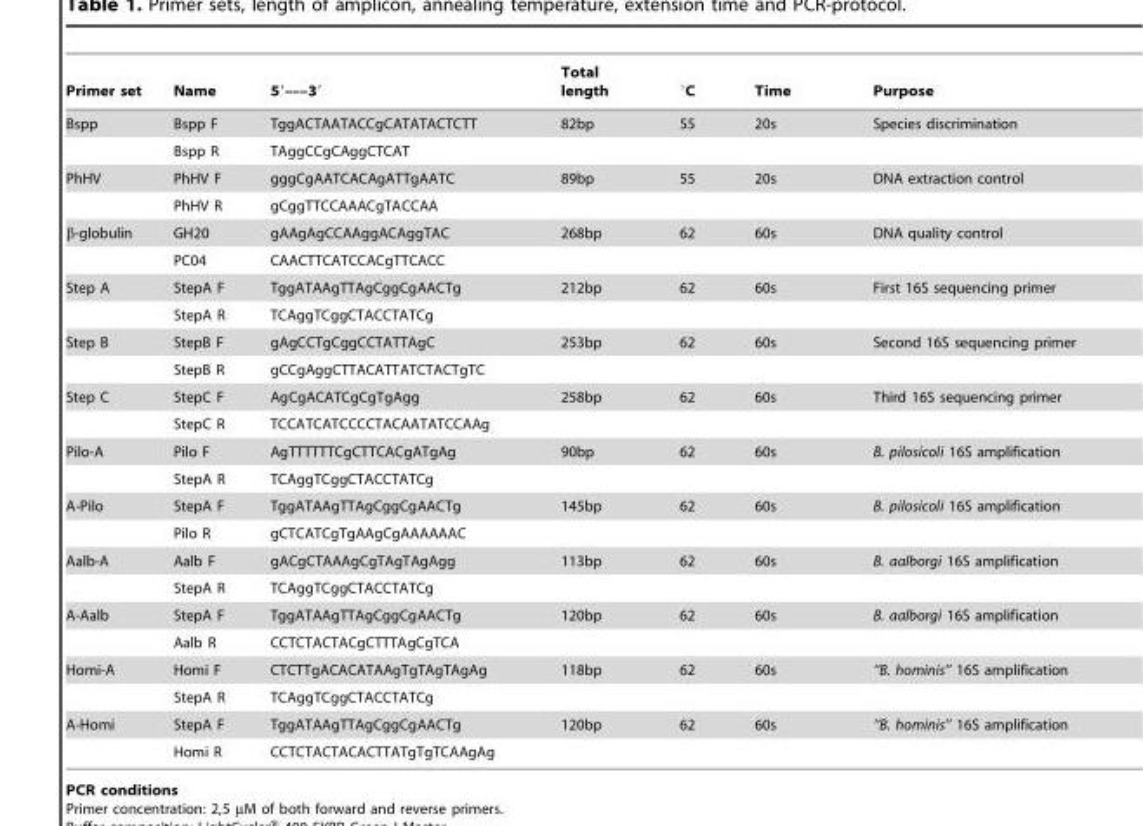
<table><thead><tr><td>Primer set</td><td>Name</td><td>5′–––3′</td><td>Total length</td><td>°C</td><td>Time</td><td>Purpose</td></tr></thead><tbody><tr><td rowspan="2">Bspp</td><td>Bspp F</td><td>TggACTAATACCgCATATACTCTT</td><td>82bp</td><td>55</td><td>20s</td><td>Species discrimination</td></tr><tr><td>Bspp R</td><td>TAggCCgCAggCTCAT</td><td></td><td></td><td></td><td></td></tr><tr><td rowspan="2">PhHV</td><td>PhHV F</td><td>gggCgAATCACAgATTgAATC</td><td>89bp</td><td>55</td><td>20s</td><td>DNA extraction control</td></tr><tr><td>PhHV R</td><td>gCggTTCCAAACgTACCAA</td><td></td><td></td><td></td><td></td></tr><tr><td rowspan="2">β-globulin</td><td>GH20</td><td>gAAgAgCCAAggACAggTAC</td><td>268bp</td><td>62</td><td>60s</td><td>DNA quality control</td></tr><tr><td>PC04</td><td>CAACTTCATCCACgTTCACC</td><td></td><td></td><td></td><td></td></tr><tr><td rowspan="2">Step A</td><td>StepA F</td><td>TggATAAgTTAgCggCgAACTg</td><td>212bp</td><td>62</td><td>60s</td><td>First 16S sequencing primer</td></tr><tr><td>StepA R</td><td>TCAggTCggCTACCTATCg</td><td></td><td></td><td></td><td></td></tr><tr><td rowspan="2">Step B</td><td>StepB F</td><td>gAgCCTgCggCCTATTAgC</td><td>253bp</td><td>62</td><td>60s</td><td>Second 16S sequencing primer</td></tr><tr><td>StepB R</td><td>gCCgAggCTTACATTATCTACTgTC</td><td></td><td></td><td></td><td></td></tr><tr><td rowspan="2">Step C</td><td>StepC F</td><td>AgCgACATCgCgTgAgg</td><td>258bp</td><td>62</td><td>60s</td><td>Third 16S sequencing primer</td></tr><tr><td>StepC R</td><td>TCCATCATCCCCTACAATATCCAAg</td><td></td><td></td><td></td><td></td></tr><tr><td rowspan="2">Pilo-A</td><td>Pilo F</td><td>AgTTTTTTCgCTTCACgATgAg</td><td>90bp</td><td>62</td><td>60s</td><td>B. pilosicoli 16S amplification</td></tr><tr><td>StepA R</td><td>TCAggTCggCTACCTATCg</td><td></td><td></td><td></td><td></td></tr><tr><td rowspan="2">A-Pilo</td><td>StepA F</td><td>TggATAAgTTAgCggCgAACTg</td><td>145bp</td><td>62</td><td>60s</td><td>B. pilosicoli 16S amplification</td></tr><tr><td>Pilo R</td><td>gCTCATCgTgAAgCgAAAAAAC</td><td></td><td></td><td></td><td></td></tr><tr><td rowspan="2">Aalb-A</td><td>Aalb F</td><td>gACgCTAAAgCgTAgTAgAgg</td><td>113bp</td><td>62</td><td>60s</td><td>B. aalborgi 16S amplification</td></tr><tr><td>StepA R</td><td>TCAggTCggCTACCTATCg</td><td></td><td></td><td></td><td></td></tr><tr><td rowspan="2">A-Aalb</td><td>StepA F</td><td>TggATAAgTTAgCggCgAACTg</td><td>120bp</td><td>62</td><td>60s</td><td>B. aalborgi 16S amplification</td></tr><tr><td>Aalb R</td><td>CCTCTACTACgCTTTAgCgTCA</td><td></td><td></td><td></td><td></td></tr><tr><td rowspan="2">Homi-A</td><td>Homi F</td><td>CTCTTgACACATAAgTgTAgTAgAg</td><td>118bp</td><td>62</td><td>60s</td><td>‘‘B. hominis’’ 16S amplification</td></tr><tr><td>StepA R</td><td>TCAggTCggCTACCTATCg</td><td></td><td></td><td></td><td></td></tr><tr><td rowspan="2">A-Homi</td><td>StepA F</td><td>TggATAAgTTAgCggCgAACTg</td><td>120bp</td><td>62</td><td>60s</td><td>‘‘B. hominis’’ 16S amplification</td></tr><tr><td>Homi R</td><td colspan="2">CCTCTACTACACTTATgTgTCAAgAg</td><td></td><td></td><td></td></tr></tbody></table>